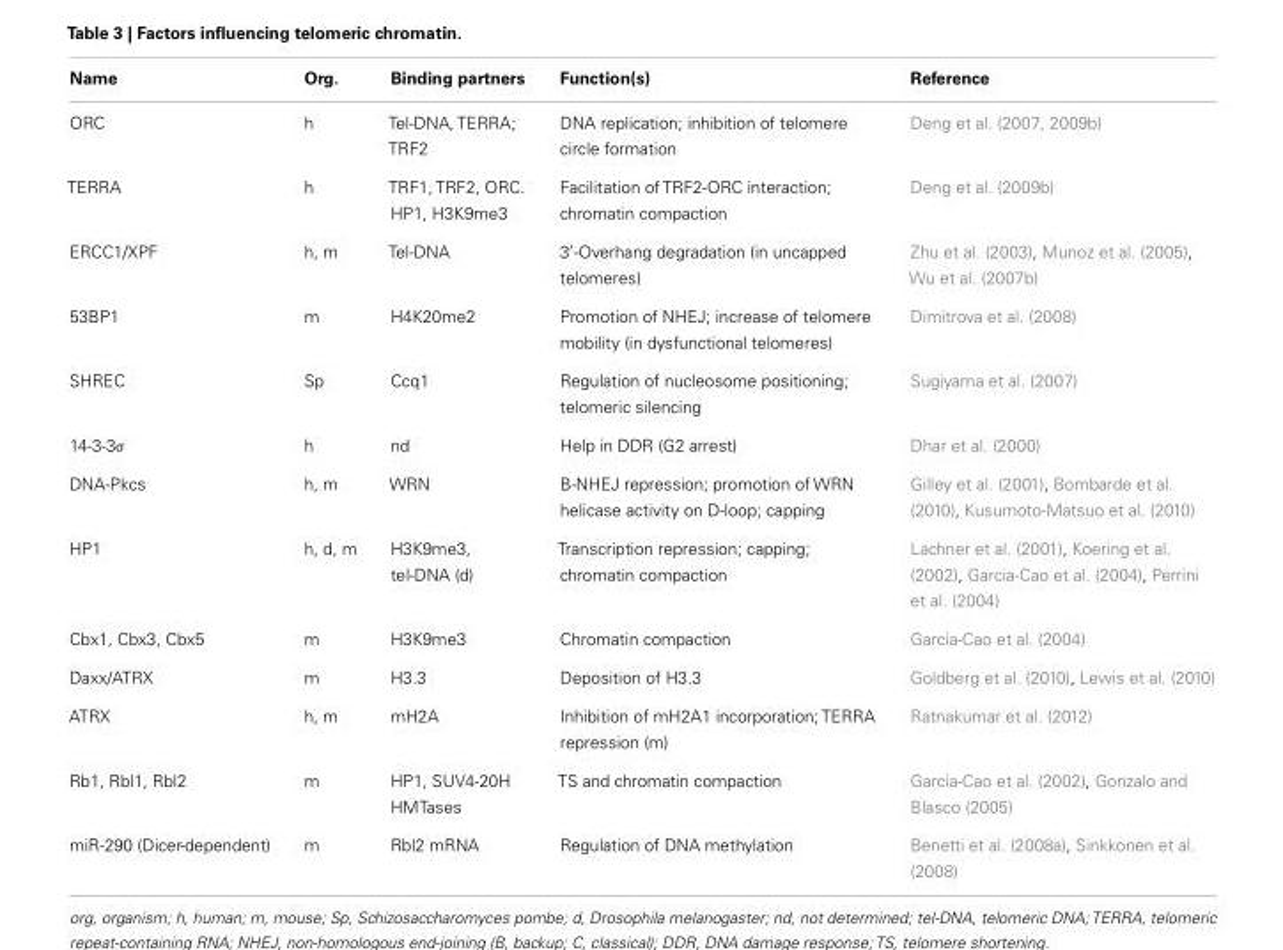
<table><thead><tr><td>Name</td><td>Org.</td><td>Binding partners</td><td>Function(s)</td><td>Reference</td></tr></thead><tbody><tr><td>ORC</td><td>h</td><td>Tel-DNA, TERRA; TRF2</td><td>DNA replication; inhibition of telomere circle formation</td><td>Deng et al. (2007, 2009b)</td></tr><tr><td>TERRA</td><td>h</td><td>TRF1, TRF2, ORC. HP1, H3K9me3</td><td>Facilitation of TRF2-ORC interaction; chromatin compaction</td><td>Deng et al. (2009b)</td></tr><tr><td>ERCC1/XPF</td><td>h, m</td><td>Tel-DNA</td><td>3′-Overhang degradation (in uncapped telomeres)</td><td>Zhu et al. (2003), Munoz et al. (2005), Wu et al. (2007b)</td></tr><tr><td>53BP1</td><td>m</td><td>H4K20me2</td><td>Promotion of NHEJ; increase of telomere mobility (in dysfunctional telomeres)</td><td>Dimitrova et al. (2008)</td></tr><tr><td>SHREC</td><td>Sp</td><td>Ccq1</td><td>Regulation of nucleosome positioning; telomeric silencing</td><td>Sugiyama et al. (2007)</td></tr><tr><td>14-3-3σ</td><td>h</td><td>nd</td><td>Help in DDR (G2 arrest)</td><td>Dhar et al. (2000)</td></tr><tr><td>DNA-Pkcs</td><td>h, m</td><td>WRN</td><td>B-NHEJ repression; promotion of WRN helicase activity on D-loop; capping</td><td>Gilley et al. (2001), Bombarde et al. (2010), Kusumoto-Matsuo et al. (2010)</td></tr><tr><td>HP1</td><td>h, d, m</td><td>H3K9me3, tel-DNA (d)</td><td>Transcription repression; capping; chromatin compaction</td><td>Lachner et al. (2001), Koering et al. (2002), Garcia-Cao et al. (2004), Perrini et al. (2004)</td></tr><tr><td>Cbx1, Cbx3, Cbx5</td><td>m</td><td>H3K9me3</td><td>Chromatin compaction</td><td>Garcia-Cao et al. (2004)</td></tr><tr><td>Daxx/ATRX</td><td>m</td><td>H3.3</td><td>Deposition of H3.3</td><td>Goldberg et al. (2010), Lewis et al. (2010)</td></tr><tr><td>ATRX</td><td>h, m</td><td>mH2A</td><td>Inhibition of mH2A1 incorporation; TERRA repression (m)</td><td>Ratnakumar et al. (2012)</td></tr><tr><td>Rb1, Rbl1, Rbl2</td><td>m</td><td>HP1, SUV4-20H HMTases</td><td>TS and chromatin compaction</td><td>Garcia-Cao et al. (2002), Gonzalo and Blasco (2005)</td></tr><tr><td>miR-290 (Dicer-dependent)</td><td>m</td><td>Rbl2 mRNA</td><td>Regulation of DNA methylation</td><td>Benetti et al. (2008a), Sinkkonen et al. (2008)</td></tr></tbody></table>